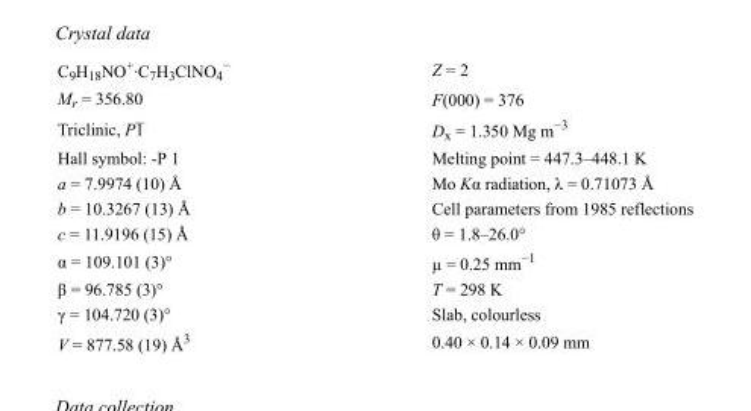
<table><tbody><tr><td>C<sub>9</sub>H<sub>18</sub>NO<sup>+</sup>·C<sub>7</sub>H<sub>3</sub>ClNO<sub>4</sub> <sup>−</sup></td><td>Z = 2</td></tr><tr><td>M<sub>r</sub> = 356.80</td><td>F(000) = 376</td></tr><tr><td>Triclinic, P1</td><td>D<sub>x</sub> = 1.350 Mg m<sup>−3</sup></td></tr><tr><td>Hall symbol: -P 1</td><td>Melting point = 447.3–448.1 K</td></tr><tr><td>a = 7.9974 (10) Å</td><td>Mo Kα radiation, λ = 0.71073 Å</td></tr><tr><td>b = 10.3267 (13) Å</td><td>Cell parameters from 1985 reflections</td></tr><tr><td>c = 11.9196 (15) Å</td><td>θ = 1.8–26.0°</td></tr><tr><td>α = 109.101 (3)°</td><td>µ = 0.25 mm<sup>−1</sup></td></tr><tr><td>β = 96.785 (3)°</td><td>T = 298 K</td></tr><tr><td>γ = 104.720 (3)°</td><td>Slab, colourless</td></tr><tr><td>V = 877.58 (19) Å<sup>3</sup></td><td>0.40 × 0.14 × 0.09 mm</td></tr></tbody></table>